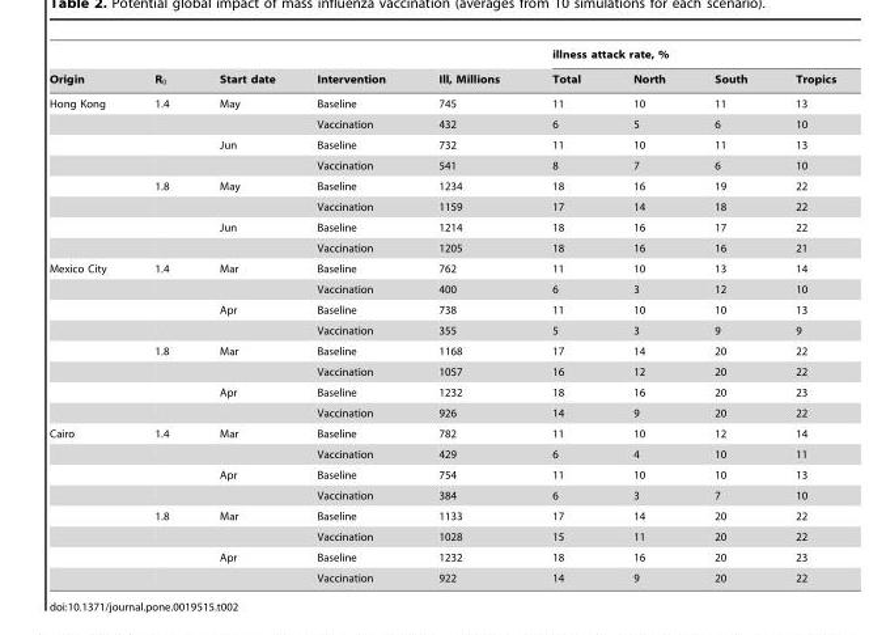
<table><thead><tr><td rowspan="2">Origin</td><td rowspan="2">R0</td><td rowspan="2">Start date</td><td rowspan="2">Intervention</td><td rowspan="2">Ill, Millions</td><td colspan="4">illness attack rate, %</td></tr><tr><td>Total</td><td>North</td><td>South</td><td>Tropics</td></tr></thead><tbody><tr><td rowspan="8">Hong Kong</td><td>1.4</td><td>May</td><td>Baseline</td><td>745</td><td>11</td><td>10</td><td>11</td><td>13</td></tr><tr><td></td><td></td><td>Vaccination</td><td>432</td><td>6</td><td>5</td><td>6</td><td>10</td></tr><tr><td></td><td>Jun</td><td>Baseline</td><td>732</td><td>11</td><td>10</td><td>11</td><td>13</td></tr><tr><td></td><td></td><td>Vaccination</td><td>541</td><td>8</td><td>7</td><td>6</td><td>10</td></tr><tr><td>1.8</td><td>May</td><td>Baseline</td><td>1234</td><td>18</td><td>16</td><td>19</td><td>22</td></tr><tr><td></td><td></td><td>Vaccination</td><td>1159</td><td>17</td><td>14</td><td>18</td><td>22</td></tr><tr><td></td><td>Jun</td><td>Baseline</td><td>1214</td><td>18</td><td>16</td><td>17</td><td>22</td></tr><tr><td></td><td></td><td>Vaccination</td><td>1205</td><td>18</td><td>16</td><td>16</td><td>21</td></tr><tr><td rowspan="8">Mexico City</td><td>1.4</td><td>Mar</td><td>Baseline</td><td>762</td><td>11</td><td>10</td><td>13</td><td>14</td></tr><tr><td></td><td></td><td>Vaccination</td><td>400</td><td>6</td><td>3</td><td>12</td><td>10</td></tr><tr><td></td><td>Apr</td><td>Baseline</td><td>738</td><td>11</td><td>10</td><td>10</td><td>13</td></tr><tr><td></td><td></td><td>Vaccination</td><td>355</td><td>5</td><td>3</td><td>9</td><td>9</td></tr><tr><td>1.8</td><td>Mar</td><td>Baseline</td><td>1168</td><td>17</td><td>14</td><td>20</td><td>22</td></tr><tr><td></td><td></td><td>Vaccination</td><td>1057</td><td>16</td><td>12</td><td>20</td><td>22</td></tr><tr><td></td><td>Apr</td><td>Baseline</td><td>1232</td><td>18</td><td>16</td><td>20</td><td>23</td></tr><tr><td></td><td></td><td>Vaccination</td><td>926</td><td>14</td><td>9</td><td>20</td><td>22</td></tr><tr><td rowspan="8">Cairo</td><td>1.4</td><td>Mar</td><td>Baseline</td><td>782</td><td>11</td><td>10</td><td>12</td><td>14</td></tr><tr><td></td><td></td><td>Vaccination</td><td>429</td><td>6</td><td>4</td><td>10</td><td>11</td></tr><tr><td></td><td>Apr</td><td>Baseline</td><td>754</td><td>11</td><td>10</td><td>10</td><td>13</td></tr><tr><td></td><td></td><td>Vaccination</td><td>384</td><td>6</td><td>3</td><td>7</td><td>10</td></tr><tr><td>1.8</td><td>Mar</td><td>Baseline</td><td>1133</td><td>17</td><td>14</td><td>20</td><td>22</td></tr><tr><td></td><td></td><td>Vaccination</td><td>1028</td><td>15</td><td>11</td><td>20</td><td>22</td></tr><tr><td></td><td>Apr</td><td>Baseline</td><td>1232</td><td>18</td><td>16</td><td>20</td><td>23</td></tr><tr><td></td><td></td><td>Vaccination</td><td>922</td><td>14</td><td>9</td><td>20</td><td>22</td></tr></tbody></table>